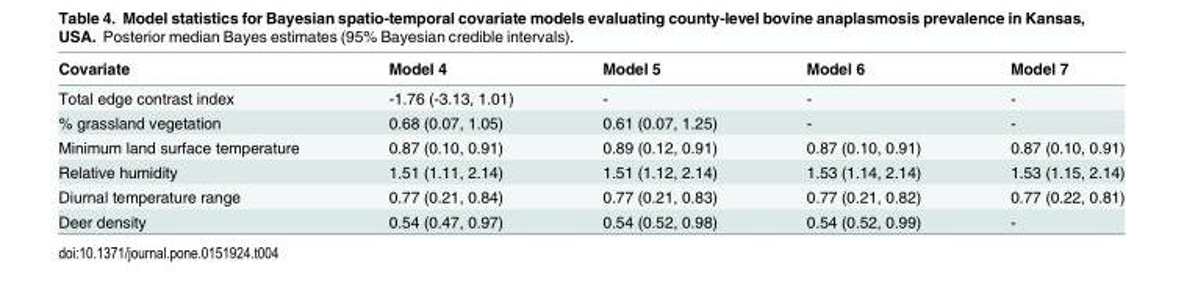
<table><thead><tr><td>Covariate</td><td>Model 4</td><td>Model 5</td><td>Model 6</td><td>Model 7</td></tr></thead><tbody><tr><td>Total edge contrast index</td><td>-1.76 (-3.13, 1.01)</td><td>-</td><td>-</td><td>-</td></tr><tr><td>% grassland vegetation</td><td>0.68 (0.07, 1.05)</td><td>0.61 (0.07, 1.25)</td><td>-</td><td>-</td></tr><tr><td>Minimum land surface temperature</td><td>0.87 (0.10, 0.91)</td><td>0.89 (0.12, 0.91)</td><td>0.87 (0.10, 0.91)</td><td>0.87 (0.10, 0.91)</td></tr><tr><td>Relative humidity</td><td>1.51 (1.11, 2.14)</td><td>1.51 (1.12, 2.14)</td><td>1.53 (1.14, 2.14)</td><td>1.53 (1.15, 2.14)</td></tr><tr><td>Diurnal temperature range</td><td>0.77 (0.21, 0.84)</td><td>0.77 (0.21, 0.83)</td><td>0.77 (0.21, 0.82)</td><td>0.77 (0.22, 0.81)</td></tr><tr><td>Deer density</td><td>0.54 (0.47, 0.97)</td><td>0.54 (0.52, 0.98)</td><td>0.54 (0.52, 0.99)</td><td>-</td></tr></tbody></table>